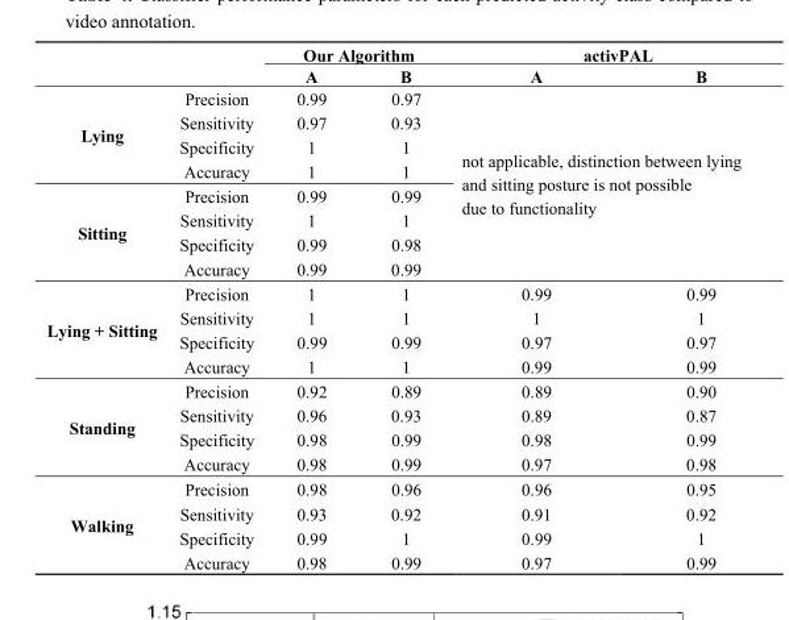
<table><thead><tr><td rowspan="2"></td><td rowspan="2"></td><td colspan="2">Our Algorithm</td><td colspan="2">activPAL</td></tr><tr><td>A</td><td>B</td><td>A</td><td>B</td></tr></thead><tbody><tr><td rowspan="4">Lying</td><td>Precision</td><td>0.99</td><td>0.97</td><td rowspan="8" colspan="2">not applicable, distinction between lying and sitting posture is not possible due to functionality</td></tr><tr><td>Sensitivity</td><td>0.97</td><td>0.93</td></tr><tr><td>Specificity</td><td>1</td><td>1</td></tr><tr><td>Accuracy</td><td>1</td><td>1</td></tr><tr><td rowspan="4">Sitting</td><td>Precision</td><td>0.99</td><td>0.99</td></tr><tr><td>Sensitivity</td><td>1</td><td>1</td></tr><tr><td>Specificity</td><td>0.99</td><td>0.98</td></tr><tr><td>Accuracy</td><td>0.99</td><td>0.99</td></tr><tr><td rowspan="4">Lying + Sitting</td><td>Precision</td><td>1</td><td>1</td><td>0.99</td><td>0.99</td></tr><tr><td>Sensitivity</td><td>1</td><td>1</td><td>1</td><td>1</td></tr><tr><td>Specificity</td><td>0.99</td><td>0.99</td><td>0.97</td><td>0.97</td></tr><tr><td>Accuracy</td><td>1</td><td>1</td><td>0.99</td><td>0.99</td></tr><tr><td rowspan="4">Standing</td><td>Precision</td><td>0.92</td><td>0.89</td><td>0.89</td><td>0.90</td></tr><tr><td>Sensitivity</td><td>0.96</td><td>0.93</td><td>0.89</td><td>0.87</td></tr><tr><td>Specificity</td><td>0.98</td><td>0.99</td><td>0.98</td><td>0.99</td></tr><tr><td>Accuracy</td><td>0.98</td><td>0.99</td><td>0.97</td><td>0.98</td></tr><tr><td rowspan="4">Walking</td><td>Precision</td><td>0.98</td><td>0.96</td><td>0.96</td><td>0.95</td></tr><tr><td>Sensitivity</td><td>0.93</td><td>0.92</td><td>0.91</td><td>0.92</td></tr><tr><td>Specificity</td><td>0.99</td><td>1</td><td>0.99</td><td>1</td></tr><tr><td>Accuracy</td><td>0.98</td><td>0.99</td><td>0.97</td><td>0.99</td></tr></tbody></table>